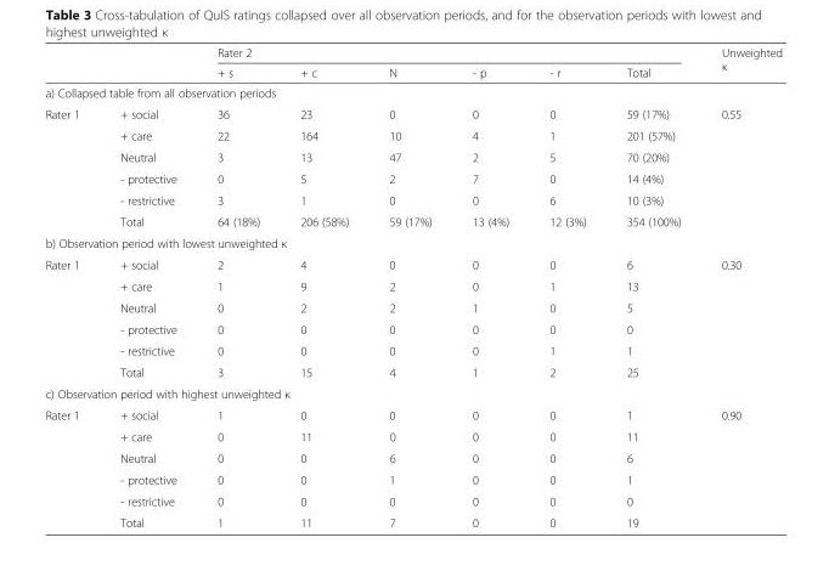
<table><thead><tr><td rowspan="2"></td><td rowspan="2"></td><td colspan="6">Rater 2</td><td rowspan="2">Unweighted κ</td></tr><tr><td>+ s</td><td>+ c</td><td>N</td><td>- p</td><td>- r</td><td>Total</td></tr></thead><tbody><tr><td colspan="9">a) Collapsed table from all observation periods</td></tr><tr><td rowspan="6">Rater 1</td><td>+ social</td><td>36</td><td>23</td><td>0</td><td>0</td><td>0</td><td>59 (17%)</td><td rowspan="6">0.55</td></tr><tr><td>+ care</td><td>22</td><td>164</td><td>10</td><td>4</td><td>1</td><td>201 (57%)</td></tr><tr><td>Neutral</td><td>3</td><td>13</td><td>47</td><td>2</td><td>5</td><td>70 (20%)</td></tr><tr><td>- protective</td><td>0</td><td>5</td><td>2</td><td>7</td><td>0</td><td>14 (4%)</td></tr><tr><td>- restrictive</td><td>3</td><td>1</td><td>0</td><td>0</td><td>6</td><td>10 (3%)</td></tr><tr><td>Total</td><td>64 (18%)</td><td>206 (58%)</td><td>59 (17%)</td><td>13 (4%)</td><td>12 (3%)</td><td>354 (100%)</td></tr><tr><td colspan="9">b) Observation period with lowest unweighted κ</td></tr><tr><td rowspan="6">Rater 1</td><td>+ social</td><td>2</td><td>4</td><td>0</td><td>0</td><td>0</td><td>6</td><td rowspan="6">0.30</td></tr><tr><td>+ care</td><td>1</td><td>9</td><td>2</td><td>0</td><td>1</td><td>13</td></tr><tr><td>Neutral</td><td>0</td><td>2</td><td>2</td><td>1</td><td>0</td><td>5</td></tr><tr><td>- protective</td><td>0</td><td>0</td><td>0</td><td>0</td><td>0</td><td>0</td></tr><tr><td>- restrictive</td><td>0</td><td>0</td><td>0</td><td>0</td><td>1</td><td>1</td></tr><tr><td>Total</td><td>3</td><td>15</td><td>4</td><td>1</td><td>2</td><td>25</td></tr><tr><td colspan="9">c) Observation period with highest unweighted κ</td></tr><tr><td rowspan="6">Rater 1</td><td>+ social</td><td>1</td><td>0</td><td>0</td><td>0</td><td>0</td><td>1</td><td rowspan="6">0.90</td></tr><tr><td>+ care</td><td>0</td><td>11</td><td>0</td><td>0</td><td>0</td><td>11</td></tr><tr><td>Neutral</td><td>0</td><td>0</td><td>6</td><td>0</td><td>0</td><td>6</td></tr><tr><td>- protective</td><td>0</td><td>0</td><td>1</td><td>0</td><td>0</td><td>1</td></tr><tr><td>- restrictive</td><td>0</td><td>0</td><td>0</td><td>0</td><td>0</td><td>0</td></tr><tr><td>Total</td><td>1</td><td>11</td><td>7</td><td>0</td><td>0</td><td>19</td></tr></tbody></table>